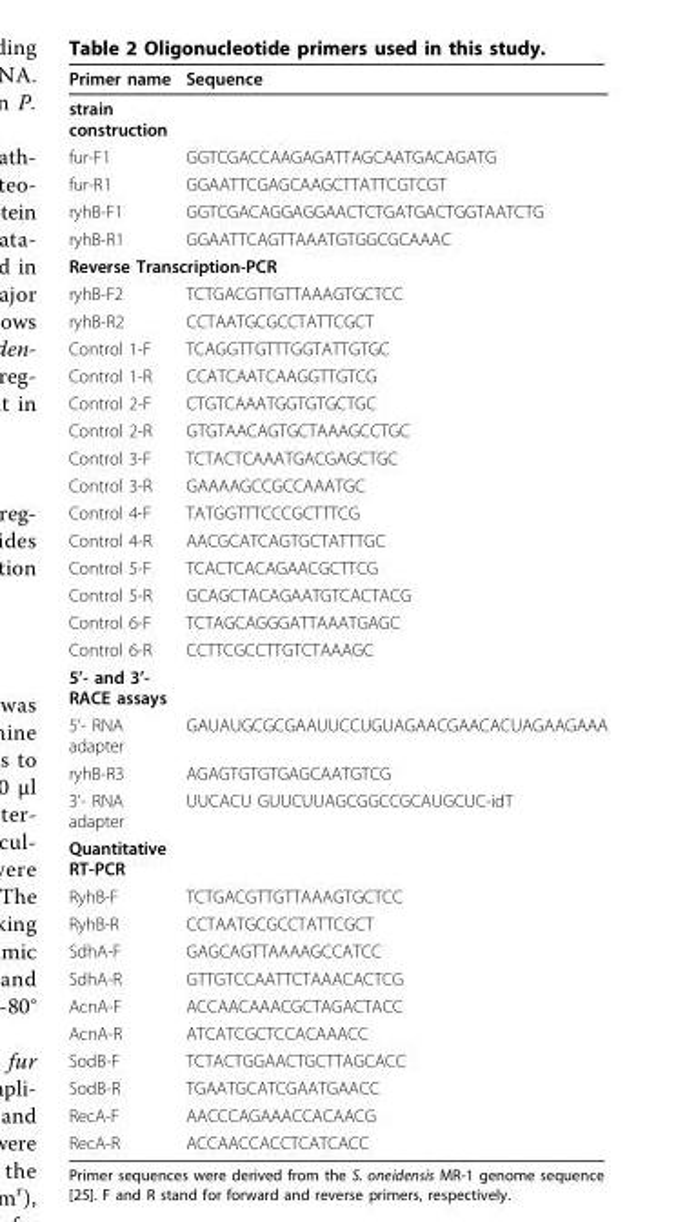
<table><thead><tr><td>Primer name</td><td>Sequence</td></tr></thead><tbody><tr><td colspan="2">strain construction</td></tr><tr><td>fur-F1</td><td>GGTCGACCAAGAGATTAGCAATGACAGATG</td></tr><tr><td>fur-R1</td><td>GGAATTCGAGCAAGCTTATTCGTCGT</td></tr><tr><td>ryhB-F1</td><td>GGTCGACAGGAGGAACTCTGATGACTGGTAATCTG</td></tr><tr><td>ryhB-R1</td><td>GGAATTCAGTTAAATGTGGCGCAAAC</td></tr><tr><td colspan="2">Reverse Transcription-PCR</td></tr><tr><td>ryhB-F2</td><td>TCTGACGTTGTTAAAGTGCTCC</td></tr><tr><td>ryhB-R2</td><td>CCTAATGCGCCTATTCGCT</td></tr><tr><td>Control 1-F</td><td>TCAGGTTGTTTGGTATTGTGC</td></tr><tr><td>Control 1-R</td><td>CCATCAATCAAGGTTGTCG</td></tr><tr><td>Control 2-F</td><td>CTGTCAAATGGTGTGCTGC</td></tr><tr><td>Control 2-R</td><td>GTGTAACAGTGCTAAAGCCTGC</td></tr><tr><td>Control 3-F</td><td>TCTACTCAAATGACGAGCTGC</td></tr><tr><td>Control 3-R</td><td>GAAAAGCCGCCAAATGC</td></tr><tr><td>Control 4-F</td><td>TATGGTTTCCCGCTTTCG</td></tr><tr><td>Control 4-R</td><td>AACGCATCAGTGCTATTTGC</td></tr><tr><td>Control 5-F</td><td>TCACTCACAGAACGCTTCG</td></tr><tr><td>Control 5-R</td><td>GCAGCTACAGAATGTCACTACG</td></tr><tr><td>Control 6-F</td><td>TCTAGCAGGGATTAAATGAGC</td></tr><tr><td>Control 6-R</td><td>CCTTCGCCTTGTCTAAAGC</td></tr><tr><td colspan="2">5’- and 3’- RACE assays</td></tr><tr><td>5’- RNA adapter</td><td>GAUAUGCGCGAAUUCCUGUAGAACGAACACUAGAAGAAA</td></tr><tr><td>ryhB-R3</td><td>AGAGTGTGTGAGCAATGTCG</td></tr><tr><td>3’- RNA adapter</td><td>UUCACU GUUCUUAGCGGCCGCAUGCUC-idT</td></tr><tr><td colspan="2">Quantitative RT-PCR</td></tr><tr><td>RyhB-F</td><td>TCTGACGTTGTTAAAGTGCTCC</td></tr><tr><td>RyhB-R</td><td>CCTAATGCGCCTATTCGCT</td></tr><tr><td>SdhA-F</td><td>GAGCAGTTAAAAGCCATCC</td></tr><tr><td>SdhA-R</td><td>GTTGTCCAATTCTAAACACTCG</td></tr><tr><td>AcnA-F</td><td>ACCAACAAACGCTAGACTACC</td></tr><tr><td>AcnA-R</td><td>ATCATCGCTCCACAAACC</td></tr><tr><td>SodB-F</td><td>TCTACTGGAACTGCTTAGCACC</td></tr><tr><td>SodB-R</td><td>TGAATGCATCGAATGAACC</td></tr><tr><td>RecA-F</td><td>AACCCAGAAACCACAACG</td></tr><tr><td>RecA-R</td><td>ACCAACCACCTCATCACC</td></tr></tbody></table>